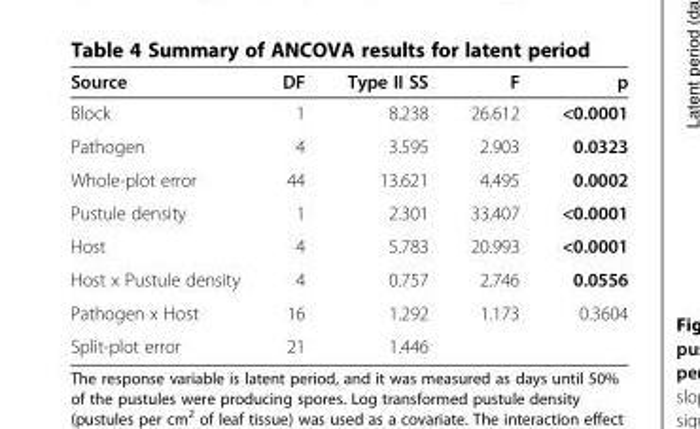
<table><thead><tr><td>Source</td><td>DF</td><td>Type II SS</td><td>F</td><td>p</td></tr></thead><tbody><tr><td>Block</td><td>1</td><td>8.238</td><td>26.612</td><td>&lt;0.0001</td></tr><tr><td>Pathogen</td><td>4</td><td>3.595</td><td>2.903</td><td>0.0323</td></tr><tr><td>Whole-plot error</td><td>44</td><td>13.621</td><td>4.495</td><td>0.0002</td></tr><tr><td>Pustule density</td><td>1</td><td>2.301</td><td>33.407</td><td>&lt;0.0001</td></tr><tr><td>Host</td><td>4</td><td>5.783</td><td>20.993</td><td>&lt;0.0001</td></tr><tr><td>Host x Pustule density</td><td>4</td><td>0.757</td><td>2.746</td><td>0.0556</td></tr><tr><td>Pathogen x Host</td><td>16</td><td>1.292</td><td>1.173</td><td>0.3604</td></tr><tr><td>Split-plot error</td><td>21</td><td>1.446</td><td></td><td></td></tr></tbody></table>